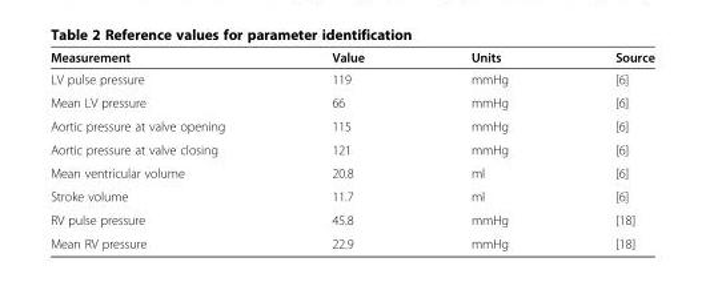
<table><thead><tr><td>Measurement</td><td>Value</td><td>Units</td><td>Source</td></tr></thead><tbody><tr><td>LV pulse pressure</td><td>119</td><td>mmHg</td><td>[6]</td></tr><tr><td>Mean LV pressure</td><td>66</td><td>mmHg</td><td>[6]</td></tr><tr><td>Aortic pressure at valve opening</td><td>115</td><td>mmHg</td><td>[6]</td></tr><tr><td>Aortic pressure at valve closing</td><td>121</td><td>mmHg</td><td>[6]</td></tr><tr><td>Mean ventricular volume</td><td>20.8</td><td>ml</td><td>[6]</td></tr><tr><td>Stroke volume</td><td>11.7</td><td>ml</td><td>[6]</td></tr><tr><td>RV pulse pressure</td><td>45.8</td><td>mmHg</td><td>[18]</td></tr><tr><td>Mean RV pressure</td><td>22.9</td><td>mmHg</td><td>[18]</td></tr></tbody></table>